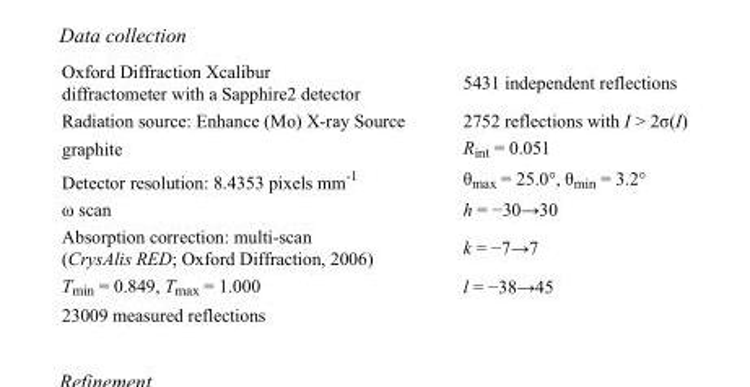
<table><tbody><tr><td>Oxford Diffraction Xcalibur diffractometer with a Sapphire2 detector</td><td>5431 independent reflections</td></tr><tr><td>Radiation source: Enhance (Mo) X-ray Source</td><td>2752 reflections with I &gt; 2σ(I)</td></tr><tr><td>graphite</td><td>R<sub>int</sub> = 0.051</td></tr><tr><td>Detector resolution: 8.4353 pixels mm<sup>-1</sup></td><td>θ<sub>max</sub> = 25.0°, θ<sub>min</sub> = 3.2°</td></tr><tr><td>ω scan</td><td>h = −30→30</td></tr><tr><td>Absorption correction: multi-scan (CrysAlis RED; Oxford Diffraction, 2006)</td><td>k = −7→7</td></tr><tr><td>T<sub>min</sub> = 0.849, T<sub>max</sub> = 1.000</td><td>l = −38→45</td></tr><tr><td>23009 measured reflections</td><td></td></tr></tbody></table>